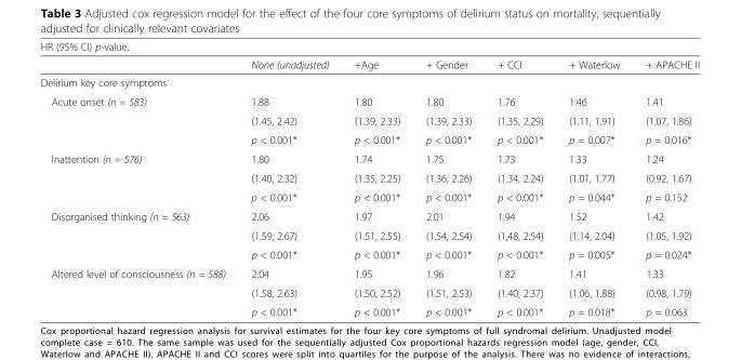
<table><thead><tr><td colspan="7">HR (95% CI) p-value.</td></tr><tr><td></td><td>None (unadjusted)</td><td>+Age</td><td>+ Gender</td><td>+ CCI</td><td>+ Waterlow</td><td>+ APACHE II</td></tr></thead><tbody><tr><td colspan="7">Delirium key core symptoms</td></tr><tr><td rowspan="3">Acute onset (n = 583)</td><td>1.88</td><td>1.80</td><td>1.80</td><td>1.76</td><td>1.46</td><td>1.41</td></tr><tr><td>(1.45, 2.42)</td><td>(1.39, 2.33)</td><td>(1.39, 2.33)</td><td>(1.35, 2.29)</td><td>(1.11, 1.91)</td><td>(1.07, 1.86)</td></tr><tr><td>p &lt; 0.001*</td><td>p &lt; 0.001*</td><td>p &lt; 0.001*</td><td>p &lt; 0.001*</td><td>p = 0.007*</td><td>p = 0.016*</td></tr><tr><td rowspan="3">Inattention (n = 576)</td><td>1.80</td><td>1.74</td><td>1.75</td><td>1.73</td><td>1.33</td><td>1.24</td></tr><tr><td>(1.40, 2.32)</td><td>(1.35, 2.25)</td><td>(1.36, 2.26)</td><td>(1.34, 2.24)</td><td>(1.01, 1.77)</td><td>(0.92, 1.67)</td></tr><tr><td>p &lt; 0.001*</td><td>p &lt; 0.001*</td><td>p &lt; 0.001*</td><td>p &lt; 0.001*</td><td>p = 0.044*</td><td>p = 0.152</td></tr><tr><td rowspan="3">Disorganised thinking (n = 563)</td><td>2.06</td><td>1.97</td><td>2.01</td><td>1.94</td><td>1.52</td><td>1.42</td></tr><tr><td>(1.59, 2.67)</td><td>(1.51, 2.55)</td><td>(1.54, 2.54)</td><td>(1,48, 2.54)</td><td>(1.14, 2.04)</td><td>(1.05, 1.92)</td></tr><tr><td>p &lt; 0.001*</td><td>p &lt; 0.001*</td><td>p &lt; 0.001*</td><td>p &lt; 0.001*</td><td>p = 0.005*</td><td>p = 0.024*</td></tr><tr><td rowspan="3">Altered level of consciousness (n = 588)</td><td>2.04</td><td>1.95</td><td>1.96</td><td>1.82</td><td>1.41</td><td>1.33</td></tr><tr><td>(1.58, 2.63)</td><td>(1.50, 2.52)</td><td>(1.51, 2.53)</td><td>(1.40, 2.37)</td><td>(1.06, 1.88)</td><td>(0.98, 1.79)</td></tr><tr><td>p &lt; 0.001*</td><td>p &lt; 0.001*</td><td>p &lt; 0.001*</td><td>p &lt; 0.001*</td><td>p = 0.018*</td><td>p = 0.063</td></tr></tbody></table>